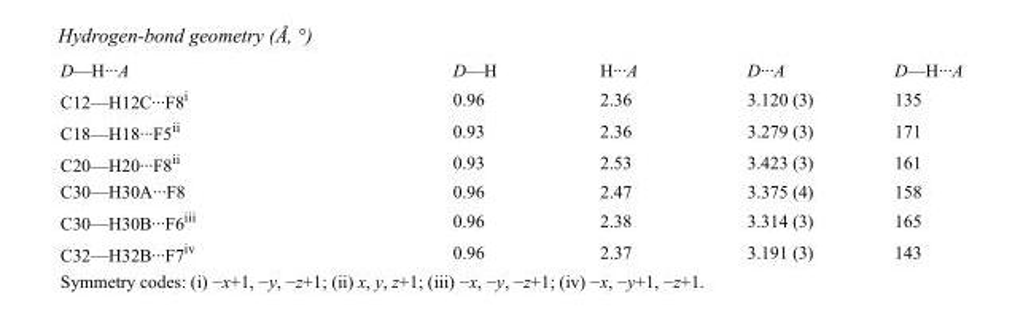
<table><tbody><tr><td>D—H···A</td><td>D—H</td><td>H···A</td><td>D···A</td><td>D—H···A</td></tr><tr><td>C12—H12C···F8<sup>i</sup></td><td>0.96</td><td>2.36</td><td>3.120 (3)</td><td>135</td></tr><tr><td>C18—H18···F5<sup>ii</sup></td><td>0.93</td><td>2.36</td><td>3.279 (3)</td><td>171</td></tr><tr><td>C20—H20···F8<sup>ii</sup></td><td>0.93</td><td>2.53</td><td>3.423 (3)</td><td>161</td></tr><tr><td>C30—H30A···F8</td><td>0.96</td><td>2.47</td><td>3.375 (4)</td><td>158</td></tr><tr><td>C30—H30B···F6<sup>iii</sup></td><td>0.96</td><td>2.38</td><td>3.314 (3)</td><td>165</td></tr><tr><td>C32—H32B···F7<sup>iv</sup></td><td>0.96</td><td>2.37</td><td>3.191 (3)</td><td>143</td></tr></tbody></table>